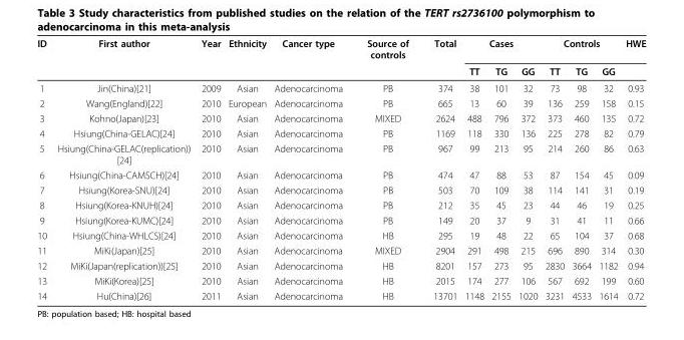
<table><thead><tr><td rowspan="2">ID</td><td rowspan="2">First author</td><td rowspan="2">Year</td><td rowspan="2">Ethnicity</td><td rowspan="2">Cancer type</td><td rowspan="2">Source of controls</td><td rowspan="2">Total</td><td colspan="3">Cases</td><td colspan="3">Controls</td><td rowspan="2">HWE</td></tr><tr><td>TT</td><td>TG</td><td>GG</td><td>TT</td><td>TG</td><td>GG</td></tr></thead><tbody><tr><td>1</td><td>Jin(China)[21]</td><td>2009</td><td>Asian</td><td>Adenocarcinoma</td><td>PB</td><td>374</td><td>38</td><td>101</td><td>32</td><td>73</td><td>98</td><td>32</td><td>0.93</td></tr><tr><td>2</td><td>Wang(England)[22]</td><td>2010</td><td>European</td><td>Adenocarcinoma</td><td>PB</td><td>665</td><td>13</td><td>60</td><td>39</td><td>136</td><td>259</td><td>158</td><td>0.15</td></tr><tr><td>3</td><td>Kohno(Japan)[23]</td><td>2010</td><td>Asian</td><td>Adenocarcinoma</td><td>MIXED</td><td>2624</td><td>488</td><td>796</td><td>372</td><td>373</td><td>460</td><td>135</td><td>0.72</td></tr><tr><td>4</td><td>Hsiung(China-GELAC)[24]</td><td>2010</td><td>Asian</td><td>Adenocarcinoma</td><td>PB</td><td>1169</td><td>118</td><td>330</td><td>136</td><td>225</td><td>278</td><td>82</td><td>0.79</td></tr><tr><td>5</td><td>Hsiung(China-GELAC(replication)) [24]</td><td>2010</td><td>Asian</td><td>Adenocarcinoma</td><td>PB</td><td>967</td><td>99</td><td>213</td><td>95</td><td>214</td><td>260</td><td>86</td><td>0.63</td></tr><tr><td>6</td><td>Hsiung(China-CAMSCH)[24]</td><td>2010</td><td>Asian</td><td>Adenocarcinoma</td><td>PB</td><td>474</td><td>47</td><td>88</td><td>53</td><td>87</td><td>154</td><td>45</td><td>0.09</td></tr><tr><td>7</td><td>Hsiung(Korea-SNU)[24]</td><td>2010</td><td>Asian</td><td>Adenocarcinoma</td><td>PB</td><td>503</td><td>70</td><td>109</td><td>38</td><td>114</td><td>141</td><td>31</td><td>0.19</td></tr><tr><td>8</td><td>Hsiung(Korea-KNUH)[24]</td><td>2010</td><td>Asian</td><td>Adenocarcinoma</td><td>PB</td><td>212</td><td>35</td><td>45</td><td>23</td><td>44</td><td>46</td><td>19</td><td>0.25</td></tr><tr><td>9</td><td>Hsiung(Korea-KUMC)[24]</td><td>2010</td><td>Asian</td><td>Adenocarcinoma</td><td>PB</td><td>149</td><td>20</td><td>37</td><td>9</td><td>31</td><td>41</td><td>11</td><td>0.66</td></tr><tr><td>10</td><td>Hsiung(China-WHLCS)[24]</td><td>2010</td><td>Asian</td><td>Adenocarcinoma</td><td>HB</td><td>295</td><td>19</td><td>48</td><td>22</td><td>65</td><td>104</td><td>37</td><td>0.68</td></tr><tr><td>11</td><td>MiKi(Japan)[25]</td><td>2010</td><td>Asian</td><td>Adenocarcinoma</td><td>MIXED</td><td>2904</td><td>291</td><td>498</td><td>215</td><td>696</td><td>890</td><td>314</td><td>0.30</td></tr><tr><td>12</td><td>MiKi(Japan(replication))[25]</td><td>2010</td><td>Asian</td><td>Adenocarcinoma</td><td>HB</td><td>8201</td><td>157</td><td>273</td><td>95</td><td>2830</td><td>3664</td><td>1182</td><td>0.94</td></tr><tr><td>13</td><td>MiKi(Korea)[25]</td><td>2010</td><td>Asian</td><td>Adenocarcinoma</td><td>HB</td><td>2015</td><td>174</td><td>277</td><td>106</td><td>567</td><td>692</td><td>199</td><td>0.60</td></tr><tr><td>14</td><td>Hu(China)[26]</td><td>2011</td><td>Asian</td><td>Adenocarcinoma</td><td>HB</td><td>13701</td><td>1148</td><td>2155</td><td>1020</td><td>3231</td><td>4533</td><td>1614</td><td>0.72</td></tr></tbody></table>